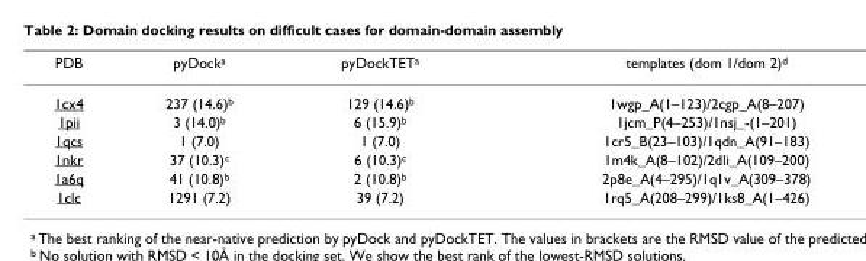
<table><thead><tr><td>PDB</td><td>pyDock<sup>a</sup></td><td>pyDockTET<sup>a</sup></td><td>templates (dom 1/dom 2)<sup>d</sup></td></tr></thead><tbody><tr><td>1cx4</td><td>237 (14.6)<sup>b</sup></td><td>129 (14.6)<sup>b</sup></td><td>1wgp_A(1–123)/2cgp_A(8–207)</td></tr><tr><td>1pii</td><td>3 (14.0)<sup>b</sup></td><td>6 (15.9)<sup>b</sup></td><td>1jcm_P(4–253)/1nsj_-(1–201)</td></tr><tr><td>1qcs</td><td>1 (7.0)</td><td>1 (7.0)</td><td>1cr5_B(23–103)/1qdn_A(91–183)</td></tr><tr><td>1nkr</td><td>37 (10.3)<sup>c</sup></td><td>6 (10.3)<sup>c</sup></td><td>1m4k_A(8–102)/2dli_A(109–200)</td></tr><tr><td>1a6q</td><td>41 (10.8)<sup>b</sup></td><td>2 (10.8)<sup>b</sup></td><td>2p8e_A(4–295)/1q1v_A(309–378)</td></tr><tr><td>1clc</td><td>1291 (7.2)</td><td>39 (7.2)</td><td>1rq5_A(208–299)/1ks8_A(1–426)</td></tr></tbody></table>